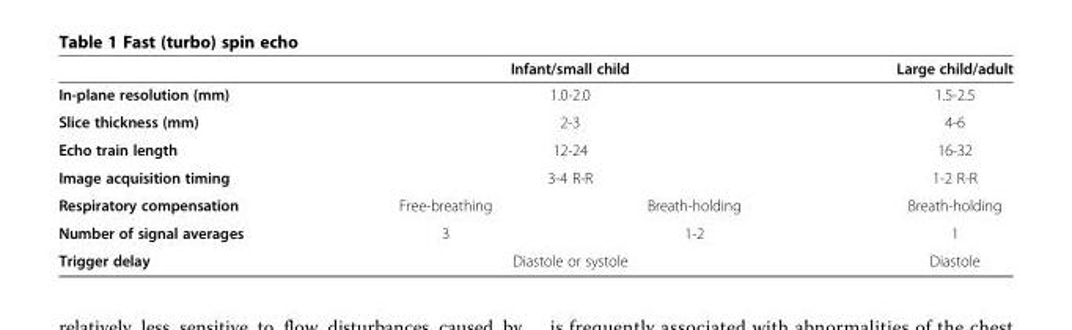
<table><thead><tr><td></td><td colspan="2">Infant/small child</td><td>Large child/adult</td></tr></thead><tbody><tr><td>In-plane resolution (mm)</td><td colspan="2">1.0-2.0</td><td>1.5-2.5</td></tr><tr><td>Slice thickness (mm)</td><td colspan="2">2-3</td><td>4-6</td></tr><tr><td>Echo train length</td><td colspan="2">12-24</td><td>16-32</td></tr><tr><td>Image acquisition timing</td><td colspan="2">3-4 R-R</td><td>1-2 R-R</td></tr><tr><td>Respiratory compensation</td><td>Free-breathing</td><td>Breath-holding</td><td>Breath-holding</td></tr><tr><td>Number of signal averages</td><td>3</td><td>1-2</td><td>1</td></tr><tr><td>Trigger delay</td><td colspan="2">Diastole or systole</td><td>Diastole</td></tr></tbody></table>